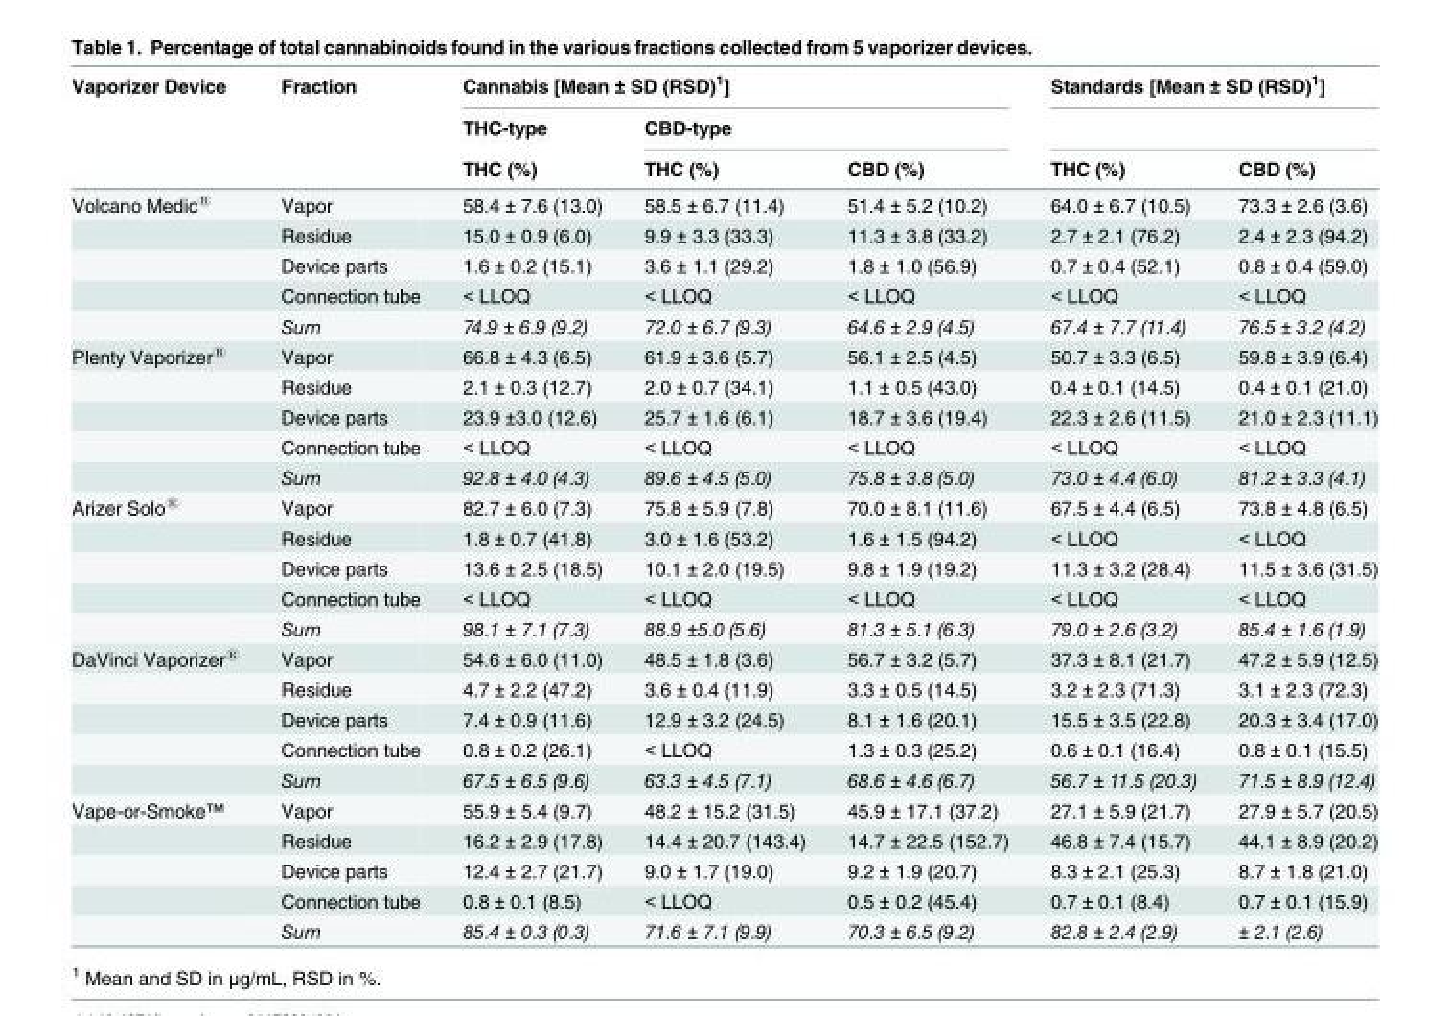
<table><thead><tr><td rowspan="3">Vaporizer Device</td><td rowspan="3">Fraction</td><td colspan="3">Cannabis [Mean ± SD (RSD)<sup>1</sup>]</td><td colspan="2">Standards [Mean ± SD (RSD)<sup>1</sup>]</td></tr><tr><td rowspan="2">THC-type THC (%)</td><td colspan="2">CBD-type</td><td rowspan="2">THC (%)</td><td rowspan="2">CBD (%)</td></tr><tr><td>THC (%)</td><td>CBD (%)</td></tr></thead><tbody><tr><td rowspan="5">Volcano Medic<sup>®</sup></td><td>Vapor</td><td>58.4 ± 7.6 (13.0)</td><td>58.5 ± 6.7 (11.4)</td><td>51.4 ± 5.2 (10.2)</td><td>64.0 ± 6.7 (10.5)</td><td>73.3 ± 2.6 (3.6)</td></tr><tr><td>Residue</td><td>15.0 ± 0.9 (6.0)</td><td>9.9 ± 3.3 (33.3)</td><td>11.3 ± 3.8 (33.2)</td><td>2.7 ± 2.1 (76.2)</td><td>2.4 ± 2.3 (94.2)</td></tr><tr><td>Device parts</td><td>1.6 ± 0.2 (15.1)</td><td>3.6 ± 1.1 (29.2)</td><td>1.8 ± 1.0 (56.9)</td><td>0.7 ± 0.4 (52.1)</td><td>0.8 ± 0.4 (59.0)</td></tr><tr><td>Connection tube</td><td>&lt; LLOQ</td><td>&lt; LLOQ</td><td>&lt; LLOQ</td><td>&lt; LLOQ</td><td>&lt; LLOQ</td></tr><tr><td>Sum</td><td>74.9 ± 6.9 (9.2)</td><td>72.0 ± 6.7 (9.3)</td><td>64.6 ± 2.9 (4.5)</td><td>67.4 ± 7.7 (11.4)</td><td>76.5 ± 3.2 (4.2)</td></tr><tr><td rowspan="5">Plenty Vaporizer<sup>®</sup></td><td>Vapor</td><td>66.8 ± 4.3 (6.5)</td><td>61.9 ± 3.6 (5.7)</td><td>56.1 ± 2.5 (4.5)</td><td>50.7 ± 3.3 (6.5)</td><td>59.8 ± 3.9 (6.4)</td></tr><tr><td>Residue</td><td>2.1 ± 0.3 (12.7)</td><td>2.0 ± 0.7 (34.1)</td><td>1.1 ± 0.5 (43.0)</td><td>0.4 ± 0.1 (14.5)</td><td>0.4 ± 0.1 (21.0)</td></tr><tr><td>Device parts</td><td>23.9 ±3.0 (12.6)</td><td>25.7 ± 1.6 (6.1)</td><td>18.7 ± 3.6 (19.4)</td><td>22.3 ± 2.6 (11.5)</td><td>21.0 ± 2.3 (11.1)</td></tr><tr><td>Connection tube</td><td>&lt; LLOQ</td><td>&lt; LLOQ</td><td>&lt; LLOQ</td><td>&lt; LLOQ</td><td>&lt; LLOQ</td></tr><tr><td>Sum</td><td>92.8 ± 4.0 (4.3)</td><td>89.6 ± 4.5 (5.0)</td><td>75.8 ± 3.8 (5.0)</td><td>73.0 ± 4.4 (6.0)</td><td>81.2 ± 3.3 (4.1)</td></tr><tr><td rowspan="5">Arizer Solo<sup>®</sup></td><td>Vapor</td><td>82.7 ± 6.0 (7.3)</td><td>75.8 ± 5.9 (7.8)</td><td>70.0 ± 8.1 (11.6)</td><td>67.5 ± 4.4 (6.5)</td><td>73.8 ± 4.8 (6.5)</td></tr><tr><td>Residue</td><td>1.8 ± 0.7 (41.8)</td><td>3.0 ± 1.6 (53.2)</td><td>1.6 ± 1.5 (94.2)</td><td>&lt; LLOQ</td><td>&lt; LLOQ</td></tr><tr><td>Device parts</td><td>13.6 ± 2.5 (18.5)</td><td>10.1 ± 2.0 (19.5)</td><td>9.8 ± 1.9 (19.2)</td><td>11.3 ± 3.2 (28.4)</td><td>11.5 ± 3.6 (31.5)</td></tr><tr><td>Connection tube</td><td>&lt; LLOQ</td><td>&lt; LLOQ</td><td>&lt; LLOQ</td><td>&lt; LLOQ</td><td>&lt; LLOQ</td></tr><tr><td>Sum</td><td>98.1 ± 7.1 (7.3)</td><td>88.9 ±5.0 (5.6)</td><td>81.3 ± 5.1 (6.3)</td><td>79.0 ± 2.6 (3.2)</td><td>85.4 ± 1.6 (1.9)</td></tr><tr><td rowspan="5">DaVinci Vaporizer<sup>®</sup></td><td>Vapor</td><td>54.6 ± 6.0 (11.0)</td><td>48.5 ± 1.8 (3.6)</td><td>56.7 ± 3.2 (5.7)</td><td>37.3 ± 8.1 (21.7)</td><td>47.2 ± 5.9 (12.5)</td></tr><tr><td>Residue</td><td>4.7 ± 2.2 (47.2)</td><td>3.6 ± 0.4 (11.9)</td><td>3.3 ± 0.5 (14.5)</td><td>3.2 ± 2.3 (71.3)</td><td>3.1 ± 2.3 (72.3)</td></tr><tr><td>Device parts</td><td>7.4 ± 0.9 (11.6)</td><td>12.9 ± 3.2 (24.5)</td><td>8.1 ± 1.6 (20.1)</td><td>15.5 ± 3.5 (22.8)</td><td>20.3 ± 3.4 (17.0)</td></tr><tr><td>Connection tube</td><td>0.8 ± 0.2 (26.1)</td><td>&lt; LLOQ</td><td>1.3 ± 0.3 (25.2)</td><td>0.6 ± 0.1 (16.4)</td><td>0.8 ± 0.1 (15.5)</td></tr><tr><td>Sum</td><td>67.5 ± 6.5 (9.6)</td><td>63.3 ± 4.5 (7.1)</td><td>68.6 ± 4.6 (6.7)</td><td>56.7 ± 11.5 (20.3)</td><td>71.5 ± 8.9 (12.4)</td></tr><tr><td rowspan="5">Vape-or-Smoke<sup>™</sup></td><td>Vapor</td><td>55.9 ± 5.4 (9.7)</td><td>48.2 ± 15.2 (31.5)</td><td>45.9 ± 17.1 (37.2)</td><td>27.1 ± 5.9 (21.7)</td><td>27.9 ± 5.7 (20.5)</td></tr><tr><td>Residue</td><td>16.2 ± 2.9 (17.8)</td><td>14.4 ± 20.7 (143.4)</td><td>14.7 ± 22.5 (152.7)</td><td>46.8 ± 7.4 (15.7)</td><td>44.1 ± 8.9 (20.2)</td></tr><tr><td>Device parts</td><td>12.4 ± 2.7 (21.7)</td><td>9.0 ± 1.7 (19.0)</td><td>9.2 ± 1.9 (20.7)</td><td>8.3 ± 2.1 (25.3)</td><td>8.7 ± 1.8 (21.0)</td></tr><tr><td>Connection tube</td><td>0.8 ± 0.1 (8.5)</td><td>&lt; LLOQ</td><td>0.5 ± 0.2 (45.4)</td><td>0.7 ± 0.1 (8.4)</td><td>0.7 ± 0.1 (15.9)</td></tr><tr><td>Sum</td><td>85.4 ± 0.3 (0.3)</td><td>71.6 ± 7.1 (9.9)</td><td>70.3 ± 6.5 (9.2)</td><td>82.8 ± 2.4 (2.9)</td><td>± 2.1 (2.6)</td></tr></tbody></table>